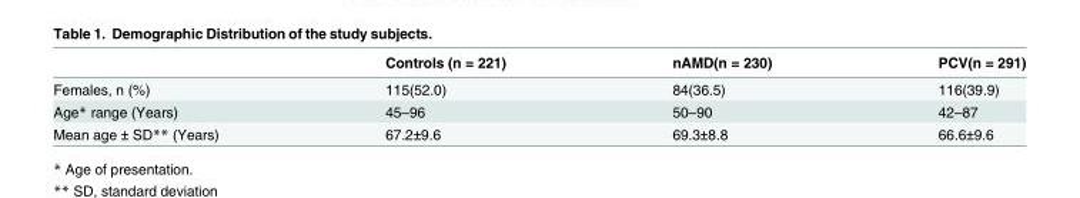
<table><thead><tr><td></td><td>Controls (n = 221)</td><td>nAMD(n = 230)</td><td>PCV(n = 291)</td></tr></thead><tbody><tr><td>Females, n (%)</td><td>115(52.0)</td><td>84(36.5)</td><td>116(39.9)</td></tr><tr><td>Age* range (Years)</td><td>45–96</td><td>50–90</td><td>42–87</td></tr><tr><td>Mean age ± SD** (Years)</td><td>67.2±9.6</td><td>69.3±8.8</td><td>66.6±9.6</td></tr></tbody></table>